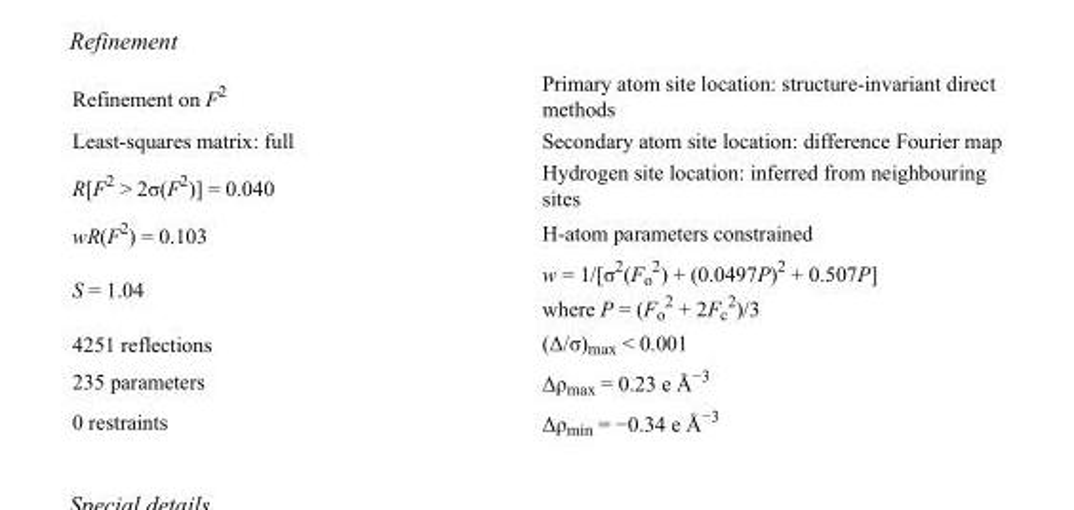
<table><tbody><tr><td>Refinement on F<sup>2</sup></td><td>Primary atom site location: structure-invariant direct methods</td></tr><tr><td>Least-squares matrix: full</td><td>Secondary atom site location: difference Fourier map</td></tr><tr><td>R[F<sup>2</sup> &gt; 2σ(F<sup>2</sup>)] = 0.040</td><td>Hydrogen site location: inferred from neighbouring sites</td></tr><tr><td>wR(F<sup>2</sup>) = 0.103</td><td>H-atom parameters constrained</td></tr><tr><td>S = 1.04</td><td>w = 1/[σ<sup>2</sup>(F<sub>o</sub> <sup>2</sup>) + (0.0497P)<sup>2</sup> + 0.507P] where P = (F<sub>o</sub> <sup>2</sup> + 2F<sub>c</sub> <sup>2</sup>)/3</td></tr><tr><td>4251 reflections</td><td>(Δ/σ)<sub>max</sub> &lt; 0.001</td></tr><tr><td>235 parameters</td><td>Δρ<sub>max</sub> = 0.23 e Å<sup>−3</sup></td></tr><tr><td>0 restraints</td><td>Δρ<sub>min</sub> = −0.34 e Å<sup>−3</sup></td></tr></tbody></table>